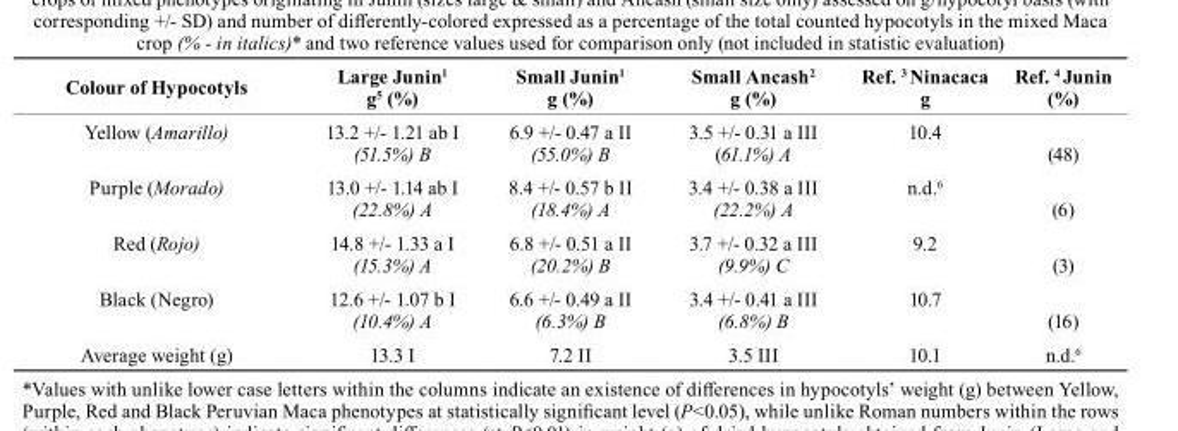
<table><thead><tr><td>colour of Hypocotyls</td><td>Large Junin<sup>1</sup> g<sup>5</sup> (%)</td><td>small Junin<sup>1</sup> g (%)</td><td>small Ancash<sup>2</sup> g (%)</td><td>ref. 3 Ninacaca g</td><td>ref. 4 Junin (%)</td></tr></thead><tbody><tr><td>Yellow (Amarillo)</td><td>13.2 +/- 1.21 ab I (51.5%) B</td><td>6.9 +/- 0.47 a II (55.0%) B</td><td>3.5 +/- 0.31 a III (61.1%) A</td><td>10.4</td><td>(48)</td></tr><tr><td>Purple (Morado)</td><td>13.0 +/- 1.14 ab I (22.8%) A</td><td>8.4 +/- 0.57 b II (18.4%) A</td><td>3.4 +/- 0.38 a III (22.2%) A</td><td>n.d.<sup>6</sup></td><td>(6)</td></tr><tr><td>Red (Rojo)</td><td>14.8 +/- 1.33 a I (15.3%) A</td><td>6.8 +/- 0.51 a II (20.2%) B</td><td>3.7 +/- 0.32 a III (9.9%) C</td><td>9.2</td><td>(3)</td></tr><tr><td>Black (Negro)</td><td>12.6 +/- 1.07 b I (10.4%) A</td><td>6.6 +/- 0.49 a II (6.3%) B</td><td>3.4 +/- 0.41 a III (6.8%) B</td><td>10.7</td><td>(16)</td></tr><tr><td>Average weight (g)</td><td>13.3 I</td><td>7.2 II</td><td>3.5 III</td><td>10.1</td><td>n.d.<sup>6</sup></td></tr></tbody></table>